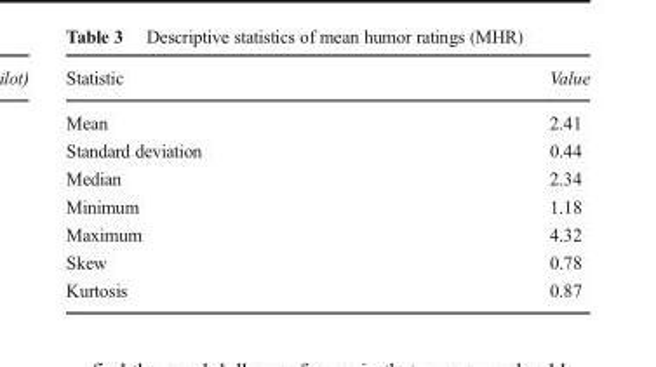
<table><thead><tr><td>Statistic</td><td>Value</td></tr></thead><tbody><tr><td>Mean</td><td>2.41</td></tr><tr><td>Standard deviation</td><td>0.44</td></tr><tr><td>Median</td><td>2.34</td></tr><tr><td>Minimum</td><td>1.18</td></tr><tr><td>Maximum</td><td>4.32</td></tr><tr><td>Skew</td><td>0.78</td></tr><tr><td>Kurtosis</td><td>0.87</td></tr></tbody></table>